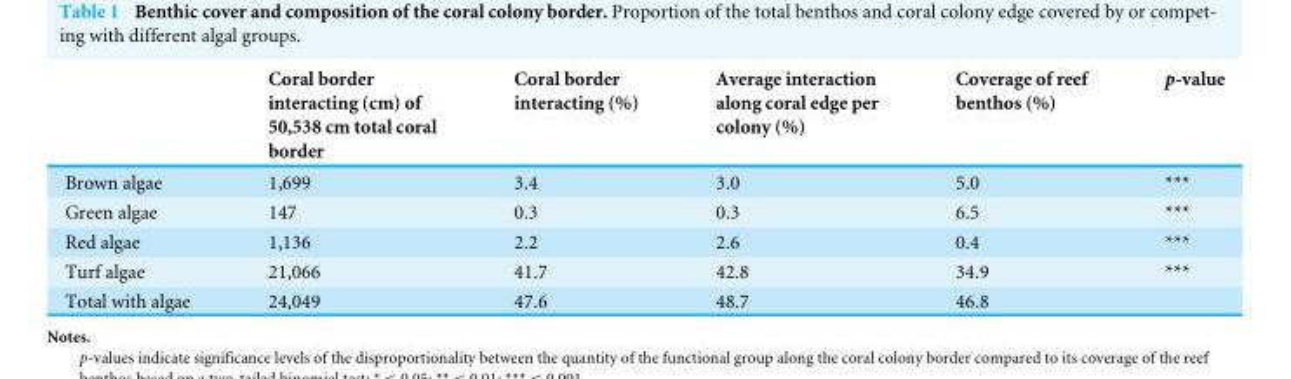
<table><thead><tr><td></td><td>Coral border interacting (cm) of 50,538 cm total coral border</td><td>Coral border interacting (%)</td><td>Average interaction along coral edge per colony (%)</td><td>Coverage of reef benthos (%)</td><td>p-value</td></tr></thead><tbody><tr><td>Brown algae</td><td>1,699</td><td>3.4</td><td>3.0</td><td>5.0</td><td>***</td></tr><tr><td>Green algae</td><td>147</td><td>0.3</td><td>0.3</td><td>6.5</td><td>***</td></tr><tr><td>Red algae</td><td>1,136</td><td>2.2</td><td>2.6</td><td>0.4</td><td>***</td></tr><tr><td>Turf algae</td><td>21,066</td><td>41.7</td><td>42.8</td><td>34.9</td><td>***</td></tr><tr><td>Total with algae</td><td>24,049</td><td>47.6</td><td>48.7</td><td>46.8</td><td></td></tr></tbody></table>